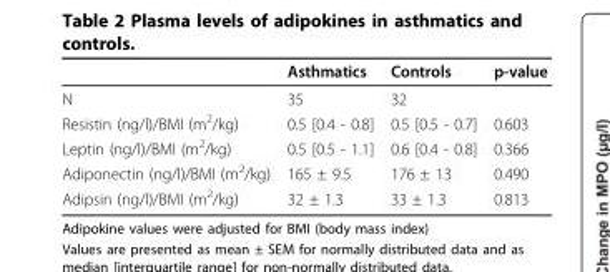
<table><thead><tr><td></td><td>Asthmatics</td><td>Controls</td><td>p-value</td></tr></thead><tbody><tr><td>N</td><td>35</td><td>32</td><td></td></tr><tr><td>Resistin (ng/l)/BMI (m<sup>2</sup>/kg)</td><td>0.5 [0.4 - 0.8]</td><td>0.5 [0.5 - 0.7]</td><td>0.603</td></tr><tr><td>Leptin (ng/l)/BMI (m<sup>2</sup>/kg)</td><td>0.5 [0.5 - 1.1]</td><td>0.6 [0.4 - 0.8]</td><td>0.366</td></tr><tr><td>Adiponectin (ng/l)/BMI (m<sup>2</sup>/kg)</td><td>165 ± 9.5</td><td>176 ± 13</td><td>0.490</td></tr><tr><td>Adipsin (ng/l)/BMI (m<sup>2</sup>/kg)</td><td>32 ± 1.3</td><td>33 ± 1.3</td><td>0.813</td></tr></tbody></table>